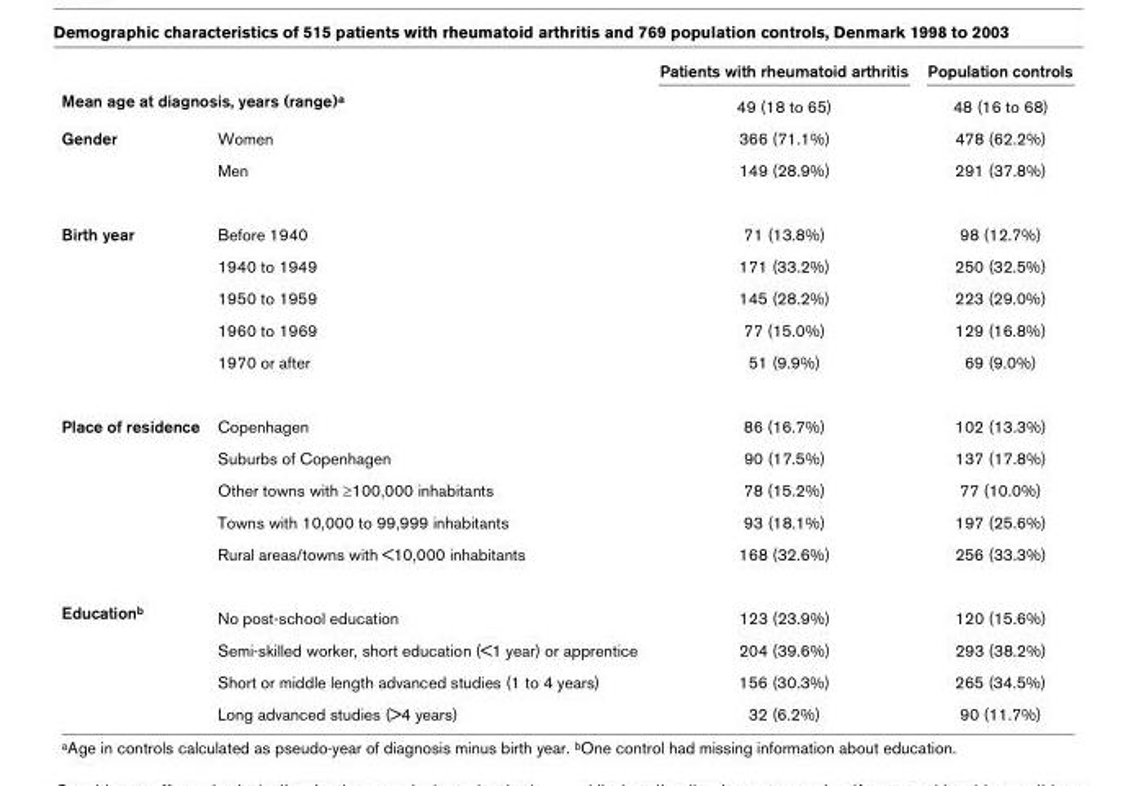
<table><thead><tr><td></td><td></td><td>Patients with rheumatoid arthritis</td><td>Population controls</td></tr></thead><tbody><tr><td colspan="2">Mean age at diagnosis, years (range)a</td><td>49 (18 to 65)</td><td>48 (16 to 68)</td></tr><tr><td rowspan="2">Gender</td><td>Women</td><td>366 (71.1%)</td><td>478 (62.2%)</td></tr><tr><td>Men</td><td>149 (28.9%)</td><td>291 (37.8%)</td></tr><tr><td rowspan="5">Birth year</td><td>Before 1940</td><td>71 (13.8%)</td><td>98 (12.7%)</td></tr><tr><td>1940 to 1949</td><td>171 (33.2%)</td><td>250 (32.5%)</td></tr><tr><td>1950 to 1959</td><td>145 (28.2%)</td><td>223 (29.0%)</td></tr><tr><td>1960 to 1969</td><td>77 (15.0%)</td><td>129 (16.8%)</td></tr><tr><td>1970 or after</td><td>51 (9.9%)</td><td>69 (9.0%)</td></tr><tr><td rowspan="5">Place of residence</td><td>Copenhagen</td><td>86 (16.7%)</td><td>102 (13.3%)</td></tr><tr><td>Suburbs of Copenhagen</td><td>90 (17.5%)</td><td>137 (17.8%)</td></tr><tr><td>Other towns with ≥100,000 inhabitants</td><td>78 (15.2%)</td><td>77 (10.0%)</td></tr><tr><td>Towns with 10,000 to 99,999 inhabitants</td><td>93 (18.1%)</td><td>197 (25.6%)</td></tr><tr><td>Rural areas/towns with &lt;10,000 inhabitants</td><td>168 (32.6%)</td><td>256 (33.3%)</td></tr><tr><td rowspan="4">Educationb</td><td>No post-school education</td><td>123 (23.9%)</td><td>120 (15.6%)</td></tr><tr><td>Semi-skilled worker, short education (&lt;1 year) or apprentice</td><td>204 (39.6%)</td><td>293 (38.2%)</td></tr><tr><td>Short or middle length advanced studies (1 to 4 years)</td><td>156 (30.3%)</td><td>265 (34.5%)</td></tr><tr><td>Long advanced studies (&gt;4 years)</td><td>32 (6.2%)</td><td>90 (11.7%)</td></tr></tbody></table>